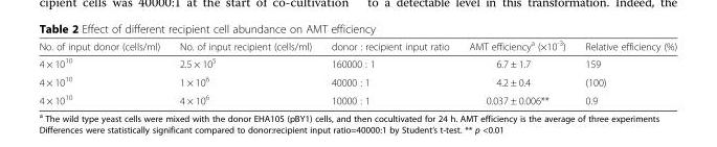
<table><thead><tr><td>No. of input donor (cells/ml)</td><td>No. of input recipient (cells/ml)</td><td>donor : recipient input ratio</td><td>AMT efficiency<sup>a</sup> (×10<sup>-3</sup>)</td><td>Relative efficiency (%)</td></tr></thead><tbody><tr><td>4 × 10<sup>10</sup></td><td>2.5 × 10<sup>5</sup></td><td>160000 : 1</td><td>6.7 ± 1.7</td><td>159</td></tr><tr><td>4 × 10<sup>10</sup></td><td>1 × 10<sup>6</sup></td><td>40000 : 1</td><td>4.2 ± 0.4</td><td>(100)</td></tr><tr><td>4 × 10<sup>10</sup></td><td>4 × 10<sup>6</sup></td><td>10000 : 1</td><td>0.037 ± 0.006**</td><td>0.9</td></tr></tbody></table>